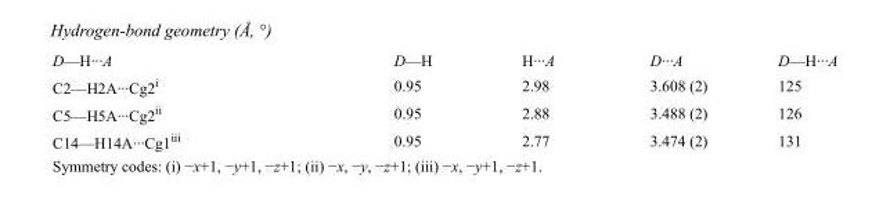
<table><tbody><tr><td>D—H···A</td><td>D—H</td><td>H···A</td><td>D···A</td><td>D—H···A</td></tr><tr><td>C2—H2A···Cg2<sup>i</sup></td><td>0.95</td><td>2.98</td><td>3.608 (2)</td><td>125</td></tr><tr><td>C5—H5A···Cg2<sup>ii</sup></td><td>0.95</td><td>2.88</td><td>3.488 (2)</td><td>126</td></tr><tr><td>C14—H14A···Cg1<sup>iii</sup></td><td>0.95</td><td>2.77</td><td>3.474 (2)</td><td>131</td></tr></tbody></table>